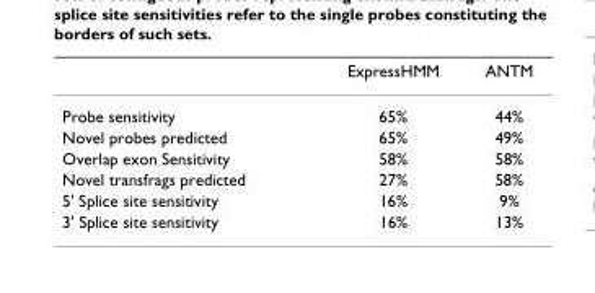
<table><thead><tr><td></td><td>ExpressHMM</td><td>ANTM</td></tr></thead><tbody><tr><td>Probe sensitivity</td><td>65%</td><td>44%</td></tr><tr><td>Novel probes predicted</td><td>65%</td><td>49%</td></tr><tr><td>Overlap exon Sensitivity</td><td>58%</td><td>58%</td></tr><tr><td>Novel transfrags predicted</td><td>27%</td><td>58%</td></tr><tr><td>5&#x27; Splice site sensitivity</td><td>16%</td><td>9%</td></tr><tr><td>3&#x27; Splice site sensitivity</td><td>16%</td><td>13%</td></tr></tbody></table>